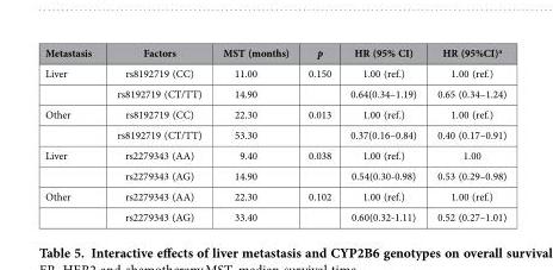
<table><thead><tr><td>Metastasis</td><td>Factors</td><td>MST (months)</td><td>p</td><td>HR (95% CI)</td><td>HR (95%CI)<sup>a</sup></td></tr></thead><tbody><tr><td rowspan="2">Liver</td><td>rs8192719 (CC)</td><td>11.00</td><td>0.150</td><td>1.00 (ref.)</td><td>1.00 (ref.)</td></tr><tr><td>rs8192719 (CT/TT)</td><td>14.90</td><td></td><td>0.64(0.34–1.19)</td><td>0.65 (0.34–1.24)</td></tr><tr><td rowspan="2">Other</td><td>rs8192719 (CC)</td><td>22.30</td><td>0.013</td><td>1.00 (ref.)</td><td>1.00 (ref.)</td></tr><tr><td>rs8192719 (CT/TT)</td><td>53.30</td><td></td><td>0.37(0.16–0.84)</td><td>0.40 (0.17–0.91)</td></tr><tr><td rowspan="2">Liver</td><td>rs2279343 (AA)</td><td>9.40</td><td>0.038</td><td>1.00 (ref.)</td><td>1.00</td></tr><tr><td>rs2279343 (AG)</td><td>14.90</td><td></td><td>0.54(0.30-0.98)</td><td>0.53 (0.29–0.98)</td></tr><tr><td rowspan="2">Other</td><td>rs2279343 (AA)</td><td>22.30</td><td>0.102</td><td>1.00 (ref.)</td><td>1.00 (ref.)</td></tr><tr><td>rs2279343 (AG)</td><td>33.40</td><td></td><td>0.60(0.32-1.11)</td><td>0.52 (0.27–1.01)</td></tr></tbody></table>